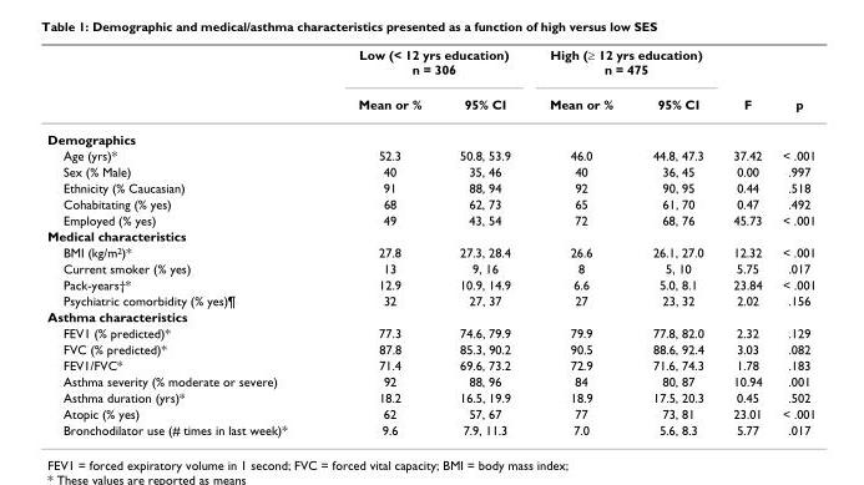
<table><thead><tr><td rowspan="2"></td><td colspan="2">Low (&lt; 12 yrs education) n = 306</td><td colspan="2">High (≥ 12 yrs education) n = 475</td><td rowspan="2">F</td><td rowspan="2">p</td></tr><tr><td>Mean or %</td><td>95% CI</td><td>Mean or %</td><td>95% CI</td></tr></thead><tbody><tr><td colspan="7">Demographics</td></tr><tr><td>Age (yrs)*</td><td>52.3</td><td>50.8, 53.9</td><td>46.0</td><td>44.8, 47.3</td><td>37.42</td><td>&lt; .001</td></tr><tr><td>Sex (% Male)</td><td>40</td><td>35, 46</td><td>40</td><td>36, 45</td><td>0.00</td><td>.997</td></tr><tr><td>Ethnicity (% Caucasian)</td><td>91</td><td>88, 94</td><td>92</td><td>90, 95</td><td>0.44</td><td>.518</td></tr><tr><td>Cohabitating (% yes)</td><td>68</td><td>62, 73</td><td>65</td><td>61, 70</td><td>0.47</td><td>.492</td></tr><tr><td>Employed (% yes)</td><td>49</td><td>43, 54</td><td>72</td><td>68, 76</td><td>45.73</td><td>&lt; .001</td></tr><tr><td colspan="7">Medical characteristics</td></tr><tr><td>BMI (kg/m<sup>2</sup>)*</td><td>27.8</td><td>27.3, 28.4</td><td>26.6</td><td>26.1, 27.0</td><td>12.32</td><td>&lt; .001</td></tr><tr><td>Current smoker (% yes)</td><td>13</td><td>9, 16</td><td>8</td><td>5, 10</td><td>5.75</td><td>.017</td></tr><tr><td>Pack-years†*</td><td>12.9</td><td>10.9, 14.9</td><td>6.6</td><td>5.0, 8.1</td><td>23.84</td><td>&lt; .001</td></tr><tr><td>Psychiatric comorbidity (% yes)¶</td><td>32</td><td>27, 37</td><td>27</td><td>23, 32</td><td>2.02</td><td>.156</td></tr><tr><td colspan="7">Asthma characteristics</td></tr><tr><td>FEV1 (% predicted)*</td><td>77.3</td><td>74.6, 79.9</td><td>79.9</td><td>77.8, 82.0</td><td>2.32</td><td>.129</td></tr><tr><td>FVC (% predicted)*</td><td>87.8</td><td>85.3, 90.2</td><td>90.5</td><td>88.6, 92.4</td><td>3.03</td><td>.082</td></tr><tr><td>FEV1/FVC*</td><td>71.4</td><td>69.6, 73.2</td><td>72.9</td><td>71.6, 74.3</td><td>1.78</td><td>.183</td></tr><tr><td>Asthma severity (% moderate or severe)</td><td>92</td><td>88, 96</td><td>84</td><td>80, 87</td><td>10.94</td><td>.001</td></tr><tr><td>Asthma duration (yrs)*</td><td>18.2</td><td>16.5, 19.9</td><td>18.9</td><td>17.5, 20.3</td><td>0.45</td><td>.502</td></tr><tr><td>Atopic (% yes)</td><td>62</td><td>57, 67</td><td>77</td><td>73, 81</td><td>23.01</td><td>&lt; .001</td></tr><tr><td>Bronchodilator use (# times in last week)*</td><td>9.6</td><td>7.9, 11.3</td><td>7.0</td><td>5.6, 8.3</td><td>5.77</td><td>.017</td></tr></tbody></table>